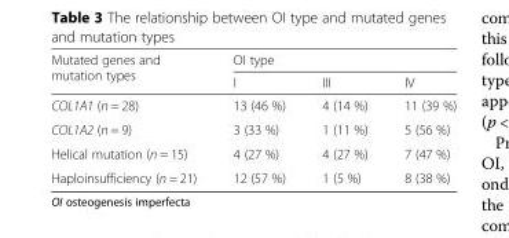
<table><thead><tr><td rowspan="2">Mutated genes and mutation types</td><td colspan="3">OI type</td></tr><tr><td>I</td><td>III</td><td>IV</td></tr></thead><tbody><tr><td>COL1A1 (n = 28)</td><td>13 (46 %)</td><td>4 (14 %)</td><td>11 (39 %)</td></tr><tr><td>COL1A2 (n = 9)</td><td>3 (33 %)</td><td>1 (11 %)</td><td>5 (56 %)</td></tr><tr><td>Helical mutation (n = 15)</td><td>4 (27 %)</td><td>4 (27 %)</td><td>7 (47 %)</td></tr><tr><td>Haploinsufficiency (n = 21)</td><td>12 (57 %)</td><td>1 (5 %)</td><td>8 (38 %)</td></tr></tbody></table>